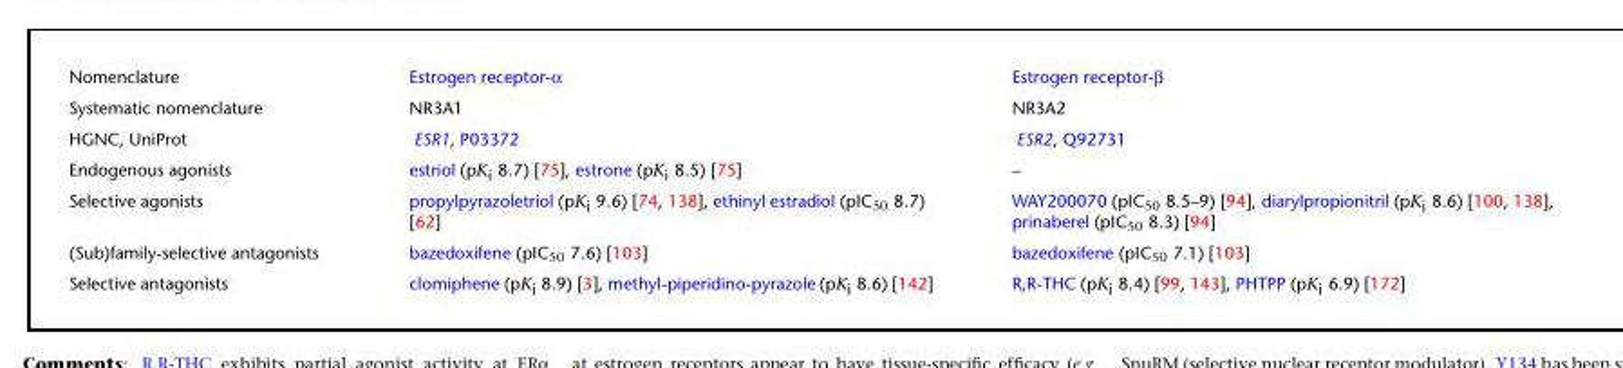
<table><tbody><tr><td>Nomenclature</td><td>Estrogen receptor-α</td><td>Estrogen receptor-β</td></tr><tr><td>Systematic nomenclature</td><td>NR3A1</td><td>NR3A2</td></tr><tr><td>HGNC, UniProt</td><td>ESR1, P03372</td><td>ESR2, Q92731</td></tr><tr><td>Endogenous agonists</td><td>estriol (pK<sub>i</sub> 8.7) [75], estrone (pK<sub>i</sub> 8.5) [75]</td><td>–</td></tr><tr><td>Selective agonists</td><td>propylpyrazoletriol (pK<sub>i</sub> 9.6) [74, 138], ethinyl estradiol (pIC<sub>50</sub> 8.7) [62]</td><td>WAY200070 (pIC<sub>50</sub> 8.5–9) [94], diarylpropionitril (pK<sub>i</sub> 8.6) [100, 138], prinaberel (pIC<sub>50</sub> 8.3) [94]</td></tr><tr><td>(Sub)family-selective antagonists</td><td>bazedoxifene (pIC<sub>50</sub> 7.6) [103]</td><td>bazedoxifene (pIC<sub>50</sub> 7.1) [103]</td></tr><tr><td>Selective antagonists</td><td>clomiphene (pKi 8.9) [3], methyl-piperidino-pyrazole (pKi 8.6) [142]</td><td>R,R-THC (pK<sub>i</sub> 8.4) [99, 143], PHTPP (pK<sub>i</sub> 6.9) [172]</td></tr></tbody></table>